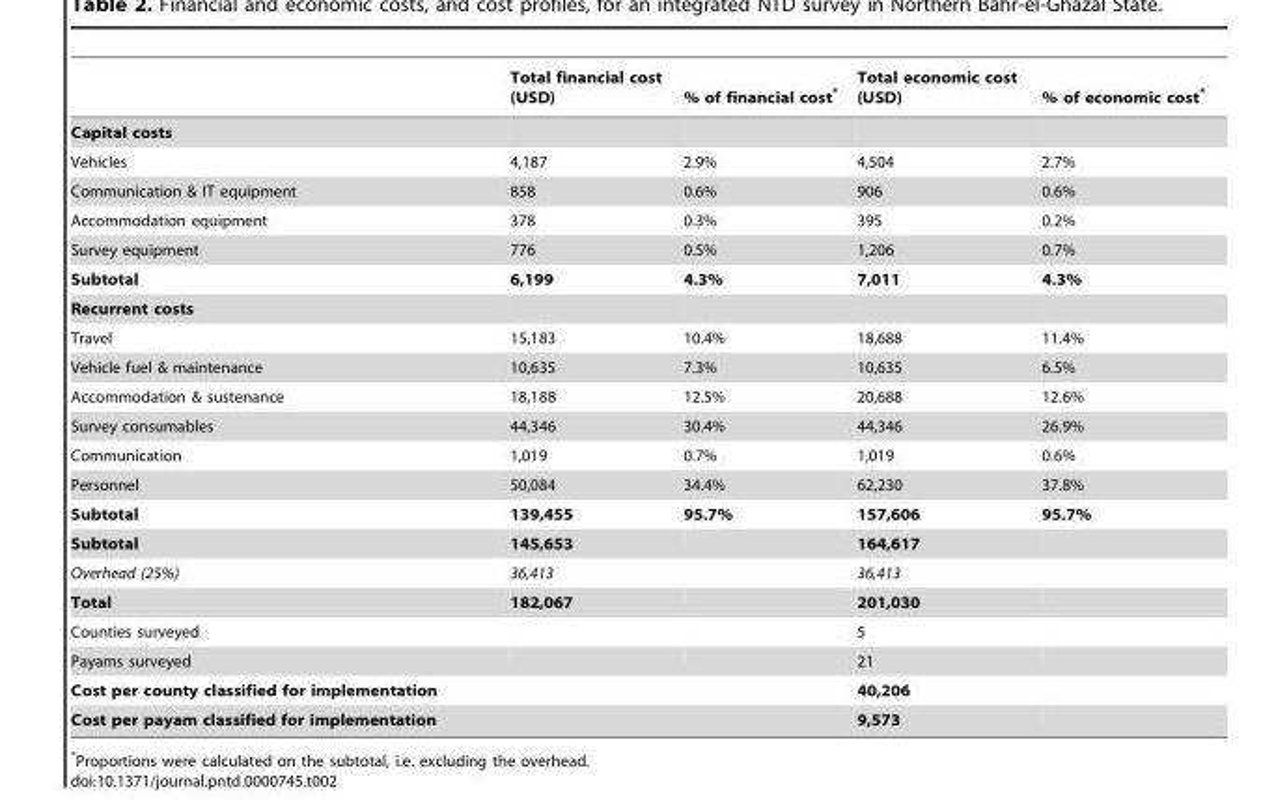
<table><thead><tr><td></td><td>Total financial cost (USD)</td><td>% of financial cost*</td><td>Total economic cost (USD)</td><td>% of economic cost*</td></tr></thead><tbody><tr><td colspan="5">Capital costs</td></tr><tr><td>Vehicles</td><td>4,187</td><td>2.9%</td><td>4,504</td><td>2.7%</td></tr><tr><td>Communication &amp; IT equipment</td><td>858</td><td>0.6%</td><td>906</td><td>0.6%</td></tr><tr><td>Accommodation equipment</td><td>378</td><td>0.3%</td><td>395</td><td>0.2%</td></tr><tr><td>Survey equipment</td><td>776</td><td>0.5%</td><td>1,206</td><td>0.7%</td></tr><tr><td>Subtotal</td><td>6,199</td><td>4.3%</td><td>7,011</td><td>4.3%</td></tr><tr><td colspan="5">Recurrent costs</td></tr><tr><td>Travel</td><td>15,183</td><td>10.4%</td><td>18,688</td><td>11.4%</td></tr><tr><td>Vehicle fuel &amp; maintenance</td><td>10,635</td><td>7.3%</td><td>10,635</td><td>6.5%</td></tr><tr><td>Accommodation &amp; sustenance</td><td>18,188</td><td>12.5%</td><td>20,688</td><td>12.6%</td></tr><tr><td>Survey consumables</td><td>44,346</td><td>30.4%</td><td>44,346</td><td>26.9%</td></tr><tr><td>Communication</td><td>1,019</td><td>0.7%</td><td>1,019</td><td>0.6%</td></tr><tr><td>Personnel</td><td>50,084</td><td>34.4%</td><td>62,230</td><td>37.8%</td></tr><tr><td>Subtotal</td><td>139,455</td><td>95.7%</td><td>157,606</td><td>95.7%</td></tr><tr><td>Subtotal</td><td>145,653</td><td></td><td>164,617</td><td></td></tr><tr><td>Overhead (25%)</td><td>36,413</td><td></td><td>36,413</td><td></td></tr><tr><td>Total</td><td>182,067</td><td></td><td>201,030</td><td></td></tr><tr><td>Counties surveyed</td><td></td><td></td><td>5</td><td></td></tr><tr><td>Payams surveyed</td><td></td><td></td><td>21</td><td></td></tr><tr><td colspan="3">Cost per county classified for implementation</td><td>40,206</td><td></td></tr><tr><td colspan="3">Cost per payam classified for implementation</td><td>9,573</td><td></td></tr></tbody></table>